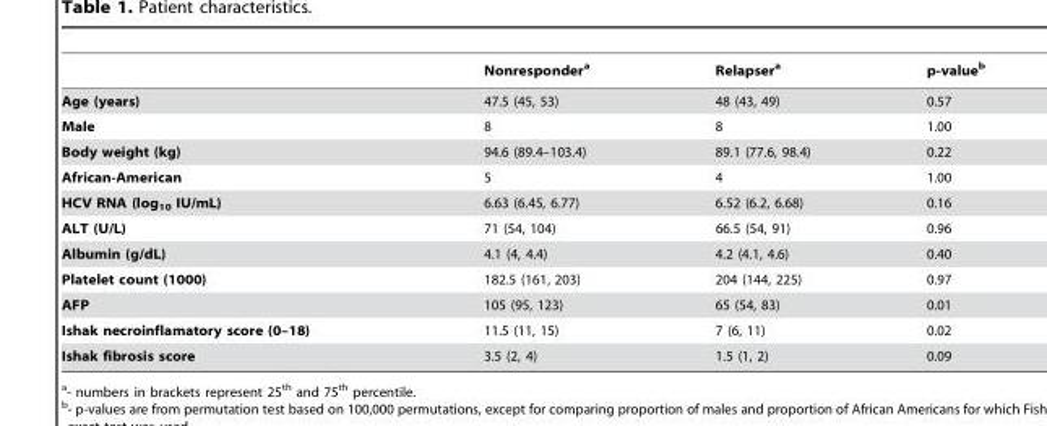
<table><thead><tr><td></td><td>Nonresponder<sup>a</sup></td><td>Relapser<sup>a</sup></td><td>p-value<sup>b</sup></td></tr></thead><tbody><tr><td>Age (years)</td><td>47.5 (45, 53)</td><td>48 (43, 49)</td><td>0.57</td></tr><tr><td>Male</td><td>8</td><td>8</td><td>1.00</td></tr><tr><td>Body weight (kg)</td><td>94.6 (89.4–103.4)</td><td>89.1 (77.6, 98.4)</td><td>0.22</td></tr><tr><td>African-American</td><td>5</td><td>4</td><td>1.00</td></tr><tr><td>HCV RNA (log<sub>10</sub> IU/mL)</td><td>6.63 (6.45, 6.77)</td><td>6.52 (6.2, 6.68)</td><td>0.16</td></tr><tr><td>ALT (U/L)</td><td>71 (54, 104)</td><td>66.5 (54, 91)</td><td>0.96</td></tr><tr><td>Albumin (g/dL)</td><td>4.1 (4, 4.4)</td><td>4.2 (4.1, 4.6)</td><td>0.40</td></tr><tr><td>Platelet count (1000)</td><td>182.5 (161, 203)</td><td>204 (144, 225)</td><td>0.97</td></tr><tr><td>AFP</td><td>105 (95, 123)</td><td>65 (54, 83)</td><td>0.01</td></tr><tr><td>Ishak necroinflamatory score (0–18)</td><td>11.5 (11, 15)</td><td>7 (6, 11)</td><td>0.02</td></tr><tr><td>Ishak fibrosis score</td><td>3.5 (2, 4)</td><td>1.5 (1, 2)</td><td>0.09</td></tr></tbody></table>